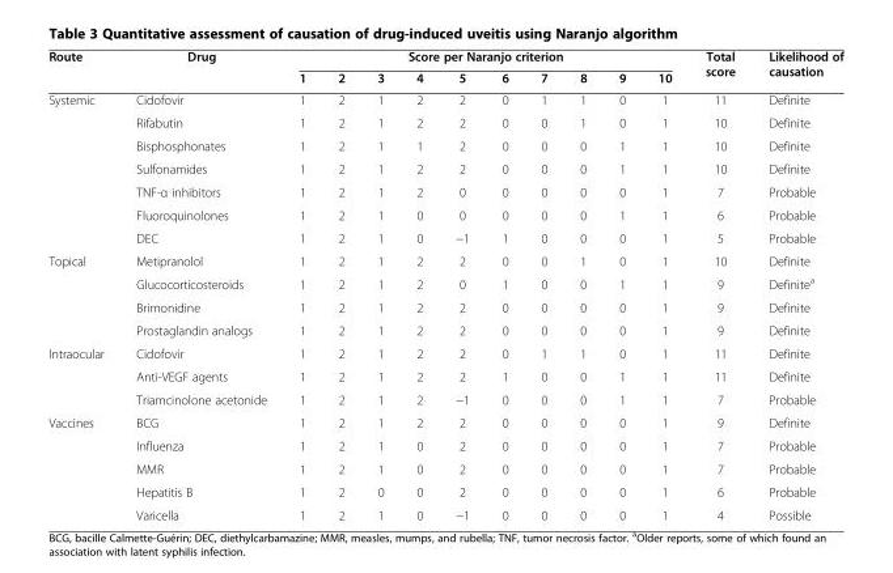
<table><thead><tr><td rowspan="2">Route</td><td rowspan="2">Drug</td><td colspan="10">Score per Naranjo criterion</td><td rowspan="2">Total score</td><td rowspan="2">Likelihood of causation</td></tr><tr><td>1</td><td>2</td><td>3</td><td>4</td><td>5</td><td>6</td><td>7</td><td>8</td><td>9</td><td>10</td></tr></thead><tbody><tr><td rowspan="7">Systemic</td><td>Cidofovir</td><td>1</td><td>2</td><td>1</td><td>2</td><td>2</td><td>0</td><td>1</td><td>1</td><td>0</td><td>1</td><td>11</td><td>Definite</td></tr><tr><td>Rifabutin</td><td>1</td><td>2</td><td>1</td><td>2</td><td>2</td><td>0</td><td>0</td><td>1</td><td>0</td><td>1</td><td>10</td><td>Definite</td></tr><tr><td>Bisphosphonates</td><td>1</td><td>2</td><td>1</td><td>1</td><td>2</td><td>0</td><td>0</td><td>0</td><td>1</td><td>1</td><td>10</td><td>Definite</td></tr><tr><td>Sulfonamides</td><td>1</td><td>2</td><td>1</td><td>2</td><td>2</td><td>0</td><td>0</td><td>0</td><td>1</td><td>1</td><td>10</td><td>Definite</td></tr><tr><td>TNF-α inhibitors</td><td>1</td><td>2</td><td>1</td><td>2</td><td>0</td><td>0</td><td>0</td><td>0</td><td>0</td><td>1</td><td>7</td><td>Probable</td></tr><tr><td>Fluoroquinolones</td><td>1</td><td>2</td><td>1</td><td>0</td><td>0</td><td>0</td><td>0</td><td>0</td><td>1</td><td>1</td><td>6</td><td>Probable</td></tr><tr><td>DEC</td><td>1</td><td>2</td><td>1</td><td>0</td><td>−1</td><td>1</td><td>0</td><td>0</td><td>0</td><td>1</td><td>5</td><td>Probable</td></tr><tr><td rowspan="4">Topical</td><td>Metipranolol</td><td>1</td><td>2</td><td>1</td><td>2</td><td>2</td><td>0</td><td>0</td><td>1</td><td>0</td><td>1</td><td>10</td><td>Definite</td></tr><tr><td>Glucocorticosteroids</td><td>1</td><td>2</td><td>1</td><td>2</td><td>0</td><td>1</td><td>0</td><td>0</td><td>1</td><td>1</td><td>9</td><td>Definite<sup>a</sup></td></tr><tr><td>Brimonidine</td><td>1</td><td>2</td><td>1</td><td>2</td><td>2</td><td>0</td><td>0</td><td>0</td><td>0</td><td>1</td><td>9</td><td>Definite</td></tr><tr><td>Prostaglandin analogs</td><td>1</td><td>2</td><td>1</td><td>2</td><td>2</td><td>0</td><td>0</td><td>0</td><td>0</td><td>1</td><td>9</td><td>Definite</td></tr><tr><td rowspan="3">Intraocular</td><td>Cidofovir</td><td>1</td><td>2</td><td>1</td><td>2</td><td>2</td><td>0</td><td>1</td><td>1</td><td>0</td><td>1</td><td>11</td><td>Definite</td></tr><tr><td>Anti-VEGF agents</td><td>1</td><td>2</td><td>1</td><td>2</td><td>2</td><td>1</td><td>0</td><td>0</td><td>1</td><td>1</td><td>11</td><td>Definite</td></tr><tr><td>Triamcinolone acetonide</td><td>1</td><td>2</td><td>1</td><td>2</td><td>−1</td><td>0</td><td>0</td><td>0</td><td>1</td><td>1</td><td>7</td><td>Probable</td></tr><tr><td rowspan="5">Vaccines</td><td>BCG</td><td>1</td><td>2</td><td>1</td><td>2</td><td>2</td><td>0</td><td>0</td><td>0</td><td>0</td><td>1</td><td>9</td><td>Definite</td></tr><tr><td>Influenza</td><td>1</td><td>2</td><td>1</td><td>0</td><td>2</td><td>0</td><td>0</td><td>0</td><td>0</td><td>1</td><td>7</td><td>Probable</td></tr><tr><td>MMR</td><td>1</td><td>2</td><td>1</td><td>0</td><td>2</td><td>0</td><td>0</td><td>0</td><td>0</td><td>1</td><td>7</td><td>Probable</td></tr><tr><td>Hepatitis B</td><td>1</td><td>2</td><td>0</td><td>0</td><td>2</td><td>0</td><td>0</td><td>0</td><td>0</td><td>1</td><td>6</td><td>Probable</td></tr><tr><td>Varicella</td><td>1</td><td>2</td><td>1</td><td>0</td><td>−1</td><td>0</td><td>0</td><td>0</td><td>0</td><td>1</td><td>4</td><td>Possible</td></tr></tbody></table>